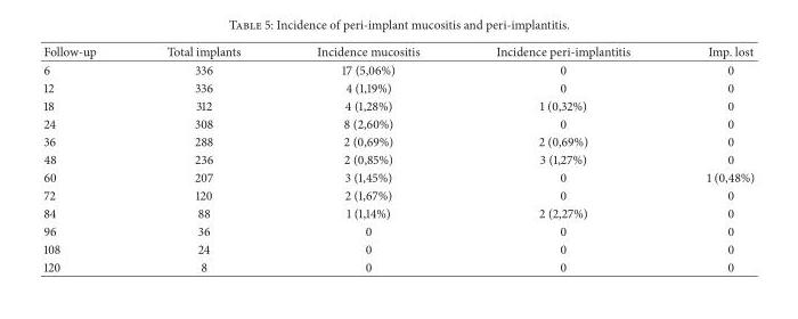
<table><thead><tr><td>Follow-up</td><td>Total implants</td><td>Incidence mucositis</td><td>Incidence peri-implantitis</td><td>Imp. lost</td></tr></thead><tbody><tr><td>6</td><td>336</td><td>17 (5,06%)</td><td>0</td><td>0</td></tr><tr><td>12</td><td>336</td><td>4 (1,19%)</td><td>0</td><td>0</td></tr><tr><td>18</td><td>312</td><td>4 (1,28%)</td><td>1 (0,32%)</td><td>0</td></tr><tr><td>24</td><td>308</td><td>8 (2,60%)</td><td>0</td><td>0</td></tr><tr><td>36</td><td>288</td><td>2 (0,69%)</td><td>2 (0,69%)</td><td>0</td></tr><tr><td>48</td><td>236</td><td>2 (0,85%)</td><td>3 (1,27%)</td><td>0</td></tr><tr><td>60</td><td>207</td><td>3 (1,45%)</td><td>0</td><td>1 (0,48%)</td></tr><tr><td>72</td><td>120</td><td>2 (1,67%)</td><td>0</td><td>0</td></tr><tr><td>84</td><td>88</td><td>1 (1,14%)</td><td>2 (2,27%)</td><td>0</td></tr><tr><td>96</td><td>36</td><td>0</td><td>0</td><td>0</td></tr><tr><td>108</td><td>24</td><td>0</td><td>0</td><td>0</td></tr><tr><td>120</td><td>8</td><td>0</td><td>0</td><td>0</td></tr></tbody></table>